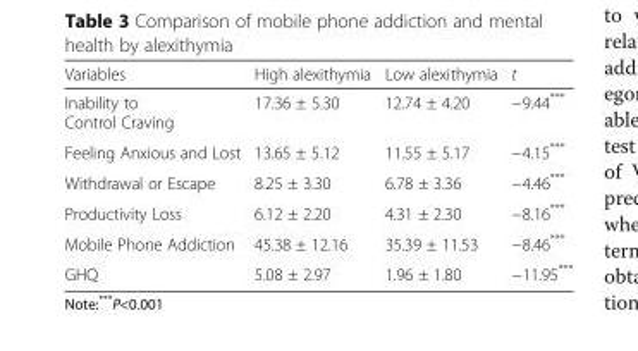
<table><thead><tr><td>Variables</td><td>High alexithymia</td><td>Low alexithymia</td><td>t</td></tr></thead><tbody><tr><td>Inability to Control Craving</td><td>17.36 ± 5.30</td><td>12.74 ± 4.20</td><td>−9.44***</td></tr><tr><td>Feeling Anxious and Lost</td><td>13.65 ± 5.12</td><td>11.55 ± 5.17</td><td>−4.15***</td></tr><tr><td>Withdrawal or Escape</td><td>8.25 ± 3.30</td><td>6.78 ± 3.36</td><td>−4.46***</td></tr><tr><td>Productivity Loss</td><td>6.12 ± 2.20</td><td>4.31 ± 2.30</td><td>−8.16***</td></tr><tr><td>Mobile Phone Addiction</td><td>45.38 ± 12.16</td><td>35.39 ± 11.53</td><td>−8.46***</td></tr><tr><td>GHQ</td><td>5.08 ± 2.97</td><td>1.96 ± 1.80</td><td>−11.95***</td></tr></tbody></table>